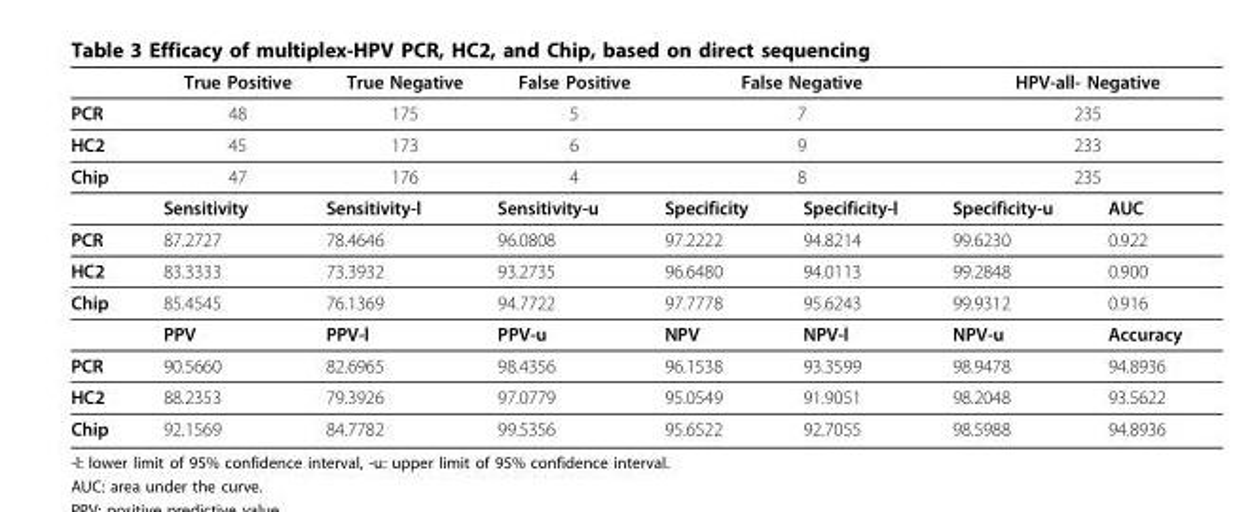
<table><thead><tr><td></td><td>True Positive</td><td>True Negative</td><td>False Positive</td><td colspan="2">False Negative</td><td colspan="2">HPV-all- Negative</td></tr></thead><tbody><tr><td>PCR</td><td>48</td><td>175</td><td>5</td><td colspan="2">7</td><td colspan="2">235</td></tr><tr><td>HC2</td><td>45</td><td>173</td><td>6</td><td colspan="2">9</td><td colspan="2">233</td></tr><tr><td rowspan="2">Chip</td><td>47</td><td>176</td><td>4</td><td colspan="2">8</td><td colspan="2">235</td></tr><tr><td>Sensitivity</td><td>Sensitivity-l</td><td>Sensitivity-u</td><td>Specificity</td><td>Specificity-l</td><td>Specificity-u</td><td>AUC</td></tr><tr><td>PCR</td><td>87.2727</td><td>78.4646</td><td>96.0808</td><td>97.2222</td><td>94.8214</td><td>99.6230</td><td>0.922</td></tr><tr><td>HC2</td><td>83.3333</td><td>73.3932</td><td>93.2735</td><td>96.6480</td><td>94.0113</td><td>99.2848</td><td>0.900</td></tr><tr><td rowspan="2">Chip</td><td>85.4545</td><td>76.1369</td><td>94.7722</td><td>97.7778</td><td>95.6243</td><td>99.9312</td><td>0.916</td></tr><tr><td>PPV</td><td>PPV-l</td><td>PPV-u</td><td>NPV</td><td>NPV-l</td><td>NPV-u</td><td>Accuracy</td></tr><tr><td>PCR</td><td>90.5660</td><td>82.6965</td><td>98.4356</td><td>96.1538</td><td>93.3599</td><td>98.9478</td><td>94.8936</td></tr><tr><td>HC2</td><td>88.2353</td><td>79.3926</td><td>97.0779</td><td>95.0549</td><td>91.9051</td><td>98.2048</td><td>93.5622</td></tr><tr><td>Chip</td><td>92.1569</td><td>84.7782</td><td>99.5356</td><td>95.6522</td><td>92.7055</td><td>98.5988</td><td>94.8936</td></tr></tbody></table>